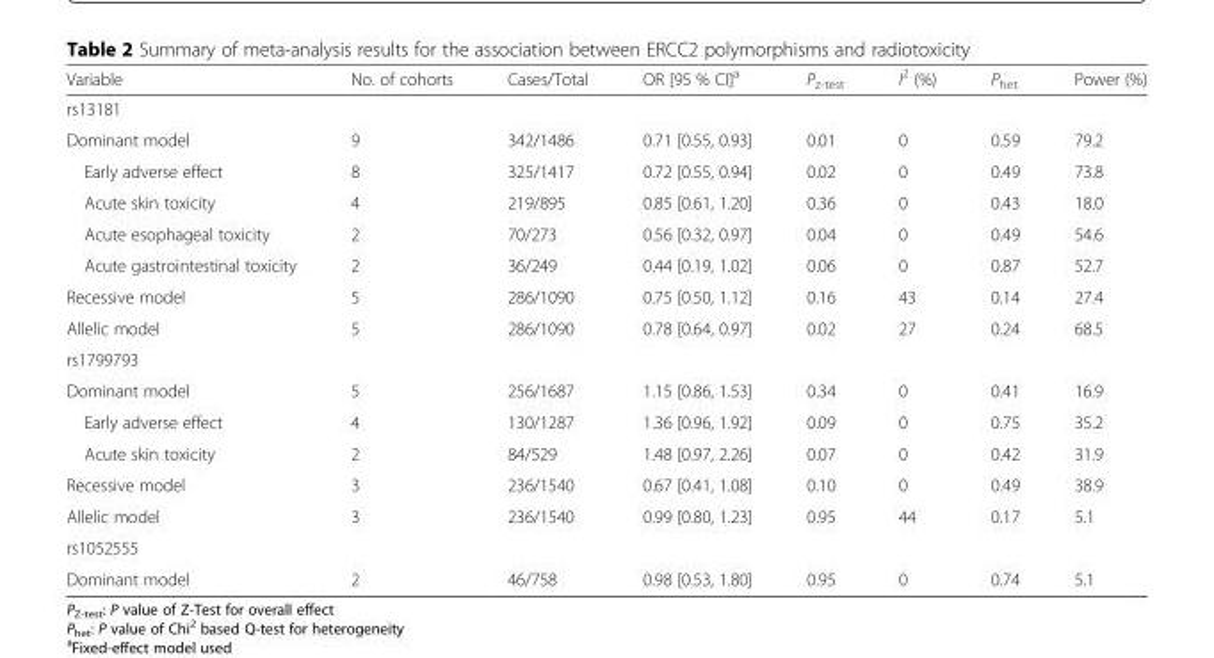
<table><thead><tr><td>Variable</td><td>No. of cohorts</td><td>Cases/Total</td><td>OR [95 % CI]<sup>a</sup></td><td>P<sub>z-test</sub></td><td>I<sup>2</sup> (%)</td><td>P<sub>het</sub></td><td>Power (%)</td></tr></thead><tbody><tr><td colspan="8">rs13181</td></tr><tr><td>Dominant model</td><td>9</td><td>342/1486</td><td>0.71 [0.55, 0.93]</td><td>0.01</td><td>0</td><td>0.59</td><td>79.2</td></tr><tr><td>Early adverse effect</td><td>8</td><td>325/1417</td><td>0.72 [0.55, 0.94]</td><td>0.02</td><td>0</td><td>0.49</td><td>73.8</td></tr><tr><td>Acute skin toxicity</td><td>4</td><td>219/895</td><td>0.85 [0.61, 1.20]</td><td>0.36</td><td>0</td><td>0.43</td><td>18.0</td></tr><tr><td>Acute esophageal toxicity</td><td>2</td><td>70/273</td><td>0.56 [0.32, 0.97]</td><td>0.04</td><td>0</td><td>0.49</td><td>54.6</td></tr><tr><td>Acute gastrointestinal toxicity</td><td>2</td><td>36/249</td><td>0.44 [0.19, 1.02]</td><td>0.06</td><td>0</td><td>0.87</td><td>52.7</td></tr><tr><td>Recessive model</td><td>5</td><td>286/1090</td><td>0.75 [0.50, 1.12]</td><td>0.16</td><td>43</td><td>0.14</td><td>27.4</td></tr><tr><td>Allelic model</td><td>5</td><td>286/1090</td><td>0.78 [0.64, 0.97]</td><td>0.02</td><td>27</td><td>0.24</td><td>68.5</td></tr><tr><td colspan="8">rs1799793</td></tr><tr><td>Dominant model</td><td>5</td><td>256/1687</td><td>1.15 [0.86, 1.53]</td><td>0.34</td><td>0</td><td>0.41</td><td>16.9</td></tr><tr><td>Early adverse effect</td><td>4</td><td>130/1287</td><td>1.36 [0.96, 1.92]</td><td>0.09</td><td>0</td><td>0.75</td><td>35.2</td></tr><tr><td>Acute skin toxicity</td><td>2</td><td>84/529</td><td>1.48 [0.97, 2.26]</td><td>0.07</td><td>0</td><td>0.42</td><td>31.9</td></tr><tr><td>Recessive model</td><td>3</td><td>236/1540</td><td>0.67 [0.41, 1.08]</td><td>0.10</td><td>0</td><td>0.49</td><td>38.9</td></tr><tr><td>Allelic model</td><td>3</td><td>236/1540</td><td>0.99 [0.80, 1.23]</td><td>0.95</td><td>44</td><td>0.17</td><td>5.1</td></tr><tr><td colspan="8">rs1052555</td></tr><tr><td>Dominant model</td><td>2</td><td>46/758</td><td>0.98 [0.53, 1.80]</td><td>0.95</td><td>0</td><td>0.74</td><td>5.1</td></tr></tbody></table>